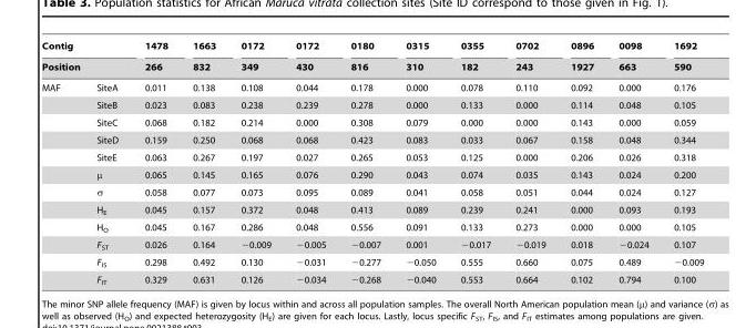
<table><thead><tr><td rowspan="2" colspan="2">Contig Position</td><td rowspan="3">1478 266 0.011</td><td rowspan="3">1663 832 0.138</td><td rowspan="3">0172 349 0.108</td><td rowspan="3">0172 430 0.044</td><td rowspan="3">0180 816 0.178</td><td rowspan="3">0315 310 0.000</td><td rowspan="3">0355 182 0.078</td><td rowspan="3">0702 243 0.110</td><td rowspan="3">0896 1927 0.092</td><td rowspan="3">0098 663 0.000</td><td rowspan="3">1692 590 0.176</td></tr><tr></tr><tr><td>MAF</td><td>SiteA</td></tr></thead><tbody><tr><td></td><td>SiteB</td><td>0.023</td><td>0.083</td><td>0.238</td><td>0.239</td><td>0.278</td><td>0.000</td><td>0.133</td><td>0.000</td><td>0.114</td><td>0.048</td><td>0.105</td></tr><tr><td></td><td>SiteC</td><td>0.068</td><td>0.182</td><td>0.214</td><td>0.000</td><td>0.308</td><td>0.079</td><td>0.000</td><td>0.000</td><td>0.143</td><td>0.000</td><td>0.059</td></tr><tr><td></td><td>SiteD</td><td>0.159</td><td>0.250</td><td>0.068</td><td>0.068</td><td>0.423</td><td>0.083</td><td>0.033</td><td>0.067</td><td>0.158</td><td>0.048</td><td>0.344</td></tr><tr><td></td><td>SiteE</td><td>0.063</td><td>0.267</td><td>0.197</td><td>0.027</td><td>0.265</td><td>0.053</td><td>0.125</td><td>0.000</td><td>0.206</td><td>0.026</td><td>0.318</td></tr><tr><td></td><td>μ</td><td>0.065</td><td>0.145</td><td>0.165</td><td>0.076</td><td>0.290</td><td>0.043</td><td>0.074</td><td>0.035</td><td>0.143</td><td>0.024</td><td>0.200</td></tr><tr><td></td><td>σ</td><td>0.058</td><td>0.077</td><td>0.073</td><td>0.095</td><td>0.089</td><td>0.041</td><td>0.058</td><td>0.051</td><td>0.044</td><td>0.024</td><td>0.127</td></tr><tr><td></td><td>H<sub>E</sub></td><td>0.045</td><td>0.157</td><td>0.372</td><td>0.048</td><td>0.413</td><td>0.089</td><td>0.239</td><td>0.241</td><td>0.000</td><td>0.093</td><td>0.193</td></tr><tr><td></td><td>H<sub>O</sub></td><td>0.045</td><td>0.167</td><td>0.286</td><td>0.048</td><td>0.556</td><td>0.091</td><td>0.133</td><td>0.273</td><td>0.000</td><td>0.000</td><td>0.105</td></tr><tr><td></td><td>F<sub>ST</sub></td><td>0.026</td><td>0.164</td><td>−0.009</td><td>−0.005</td><td>−0.007</td><td>0.001</td><td>−0.017</td><td>−0.019</td><td>0.018</td><td>−0.024</td><td>0.107</td></tr><tr><td></td><td>F<sub>IS</sub></td><td>0.298</td><td>0.492</td><td>0.130</td><td>−0.031</td><td>−0.277</td><td>−0.050</td><td>0.555</td><td>0.660</td><td>0.075</td><td>0.489</td><td>−0.009</td></tr><tr><td></td><td>F<sub>IT</sub></td><td>0.329</td><td>0.631</td><td>0.126</td><td>−0.034</td><td>−0.268</td><td>−0.040</td><td>0.553</td><td>0.664</td><td>0.102</td><td>0.794</td><td>0.100</td></tr></tbody></table>